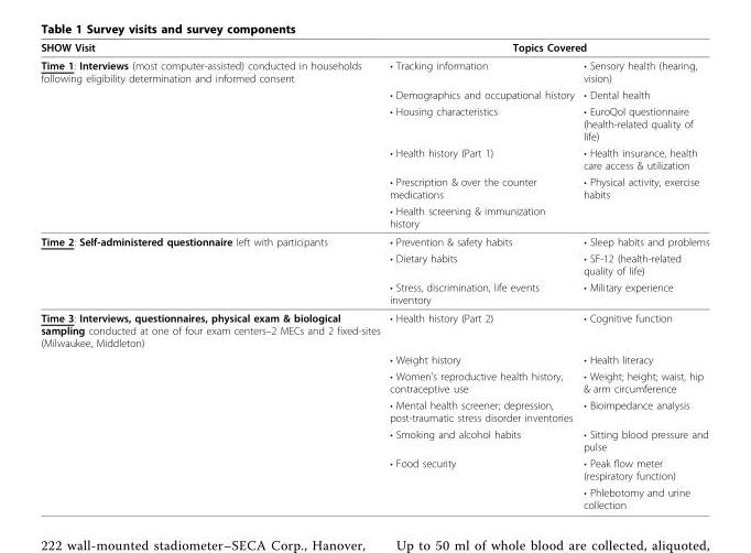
<table><thead><tr><td rowspan="2">SHOW Visit Time 1: Interviews (most computer-assisted) conducted in households following eligibility determination and informed consent</td><td colspan="2">Topics Covered</td></tr><tr><td>• Tracking information</td><td>• Sensory health (hearing, vision)</td></tr></thead><tbody><tr><td></td><td>• Demographics and occupational history</td><td>• Dental health</td></tr><tr><td></td><td>• Housing characteristics</td><td>• EuroQol questionnaire (health-related quality of life)</td></tr><tr><td></td><td>• Health history (Part 1)</td><td>• Health insurance, health care access &amp; utilization</td></tr><tr><td></td><td>• Prescription &amp; over the counter medications</td><td>• Physical activity, exercise habits</td></tr><tr><td></td><td>• Health screening &amp; immunization history</td><td></td></tr><tr><td rowspan="3">Time 2: Self-administered questionnaire left with participants</td><td>• Prevention &amp; safety habits</td><td>• Sleep habits and problems</td></tr><tr><td>• Dietary habits</td><td>• SF-12 (health-related quality of life)</td></tr><tr><td>• Stress, discrimination, life events inventory</td><td>• Military experience</td></tr><tr><td rowspan="7">Time 3: Interviews, questionnaires, physical exam &amp; biological sampling conducted at one of four exam centers–2 MECs and 2 fixed-sites (Milwaukee, Middleton)</td><td>• Health history (Part 2)</td><td>• Cognitive function</td></tr><tr><td>• Weight history</td><td>• Health literacy</td></tr><tr><td>• Women’s reproductive health history, contraceptive use</td><td>• Weight; height; waist, hip &amp; arm circumference</td></tr><tr><td>• Mental health screener; depression, post-traumatic stress disorder inventories</td><td>• Bioimpedance analysis</td></tr><tr><td>• Smoking and alcohol habits</td><td>• Sitting blood pressure and pulse</td></tr><tr><td>• Food security</td><td>• Peak flow meter (respiratory function)</td></tr><tr><td></td><td>• Phlebotomy and urine collection</td></tr></tbody></table>